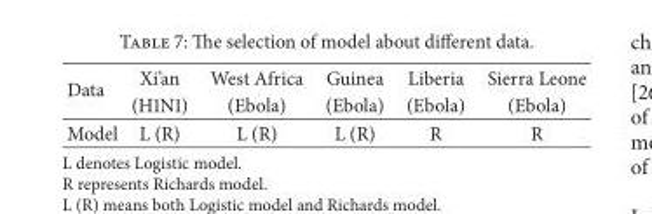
<table><thead><tr><td rowspan="2">Data</td><td rowspan="2">Xi’an (H1N1)</td><td rowspan="2">West Africa (Ebola)</td><td rowspan="2">Guinea (Ebola)</td><td rowspan="2">Liberia (Ebola)</td><td rowspan="2">Sierra Leone (Ebola)</td></tr><tr></tr></thead><tbody><tr><td>Model</td><td>L (R)</td><td>L (R)</td><td>L (R)</td><td>R</td><td>R</td></tr></tbody></table>